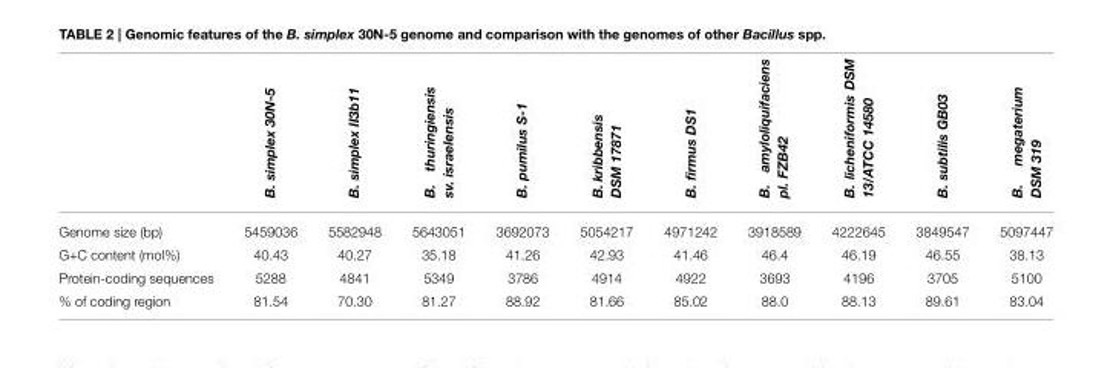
<table><thead><tr><td></td><td>B. simplex 30N-5</td><td>B. simplex II3b11</td><td>B. thuringiensis sv. israelensis</td><td>B. pumilus S-1</td><td>B. kribbensis DSM 17871</td><td>B. firmus DS1</td><td>B. amyloliquifaciens pl. FZB42</td><td>B. licheniformis DSM 13/ATCC 14580</td><td>B. subtilis GB03</td><td>B. megaterium DSM 319</td></tr></thead><tbody><tr><td>Genome size (bp)</td><td>5459036</td><td>5582948</td><td>5643051</td><td>3692073</td><td>5054217</td><td>4971242</td><td>3918589</td><td>4222645</td><td>3849547</td><td>5097447</td></tr><tr><td>G+C content (mol%)</td><td>40.43</td><td>40.27</td><td>35.18</td><td>41.26</td><td>42.93</td><td>41.46</td><td>46.4</td><td>46.19</td><td>46.55</td><td>38.13</td></tr><tr><td>Protein-coding sequences</td><td>5288</td><td>4841</td><td>5349</td><td>3786</td><td>4914</td><td>4922</td><td>3693</td><td>4196</td><td>3705</td><td>5100</td></tr><tr><td>% of coding region</td><td>81.54</td><td>70.30</td><td>81.27</td><td>88.92</td><td>81.66</td><td>85.02</td><td>88.0</td><td>88.13</td><td>89.61</td><td>83.04</td></tr></tbody></table>